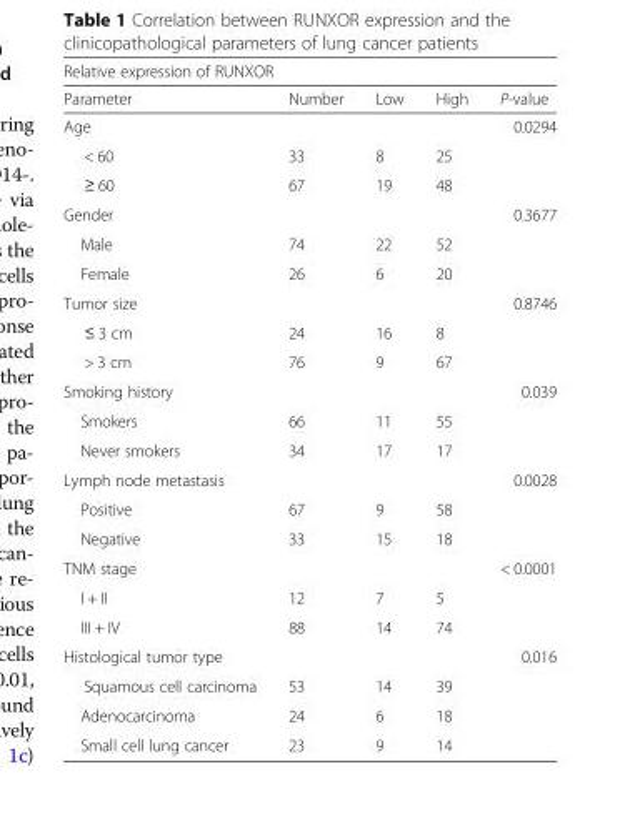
<table><thead><tr><td colspan="5">Relative expression of RUNXOR</td></tr><tr><td>Parameter</td><td>Number</td><td>Low</td><td>High</td><td>P-value</td></tr></thead><tbody><tr><td colspan="4">Age</td><td>0.0294</td></tr><tr><td>&lt; 60</td><td>33</td><td>8</td><td>25</td><td rowspan="2"></td></tr><tr><td>≥ 60</td><td>67</td><td>19</td><td>48</td></tr><tr><td colspan="4">Gender</td><td>0.3677</td></tr><tr><td>Male</td><td>74</td><td>22</td><td>52</td><td rowspan="2"></td></tr><tr><td>Female</td><td>26</td><td>6</td><td>20</td></tr><tr><td colspan="4">Tumor size</td><td>0.8746</td></tr><tr><td>≤ 3 cm</td><td>24</td><td>16</td><td>8</td><td rowspan="2"></td></tr><tr><td>&gt; 3 cm</td><td>76</td><td>9</td><td>67</td></tr><tr><td colspan="4">Smoking history</td><td>0.039</td></tr><tr><td>Smokers</td><td>66</td><td>11</td><td>55</td><td rowspan="2"></td></tr><tr><td>Never smokers</td><td>34</td><td>17</td><td>17</td></tr><tr><td colspan="4">Lymph node metastasis</td><td>0.0028</td></tr><tr><td>Positive</td><td>67</td><td>9</td><td>58</td><td rowspan="2"></td></tr><tr><td>Negative</td><td>33</td><td>15</td><td>18</td></tr><tr><td colspan="4">TNM stage</td><td>&lt; 0.0001</td></tr><tr><td>I + II</td><td>12</td><td>7</td><td>5</td><td rowspan="2"></td></tr><tr><td>III + IV</td><td>88</td><td>14</td><td>74</td></tr><tr><td colspan="4">Histological tumor type</td><td>0.016</td></tr><tr><td>Squamous cell carcinoma</td><td>53</td><td>14</td><td>39</td><td rowspan="3"></td></tr><tr><td>Adenocarcinoma</td><td>24</td><td>6</td><td>18</td></tr><tr><td>Small cell lung cancer</td><td>23</td><td>9</td><td>14</td></tr></tbody></table>